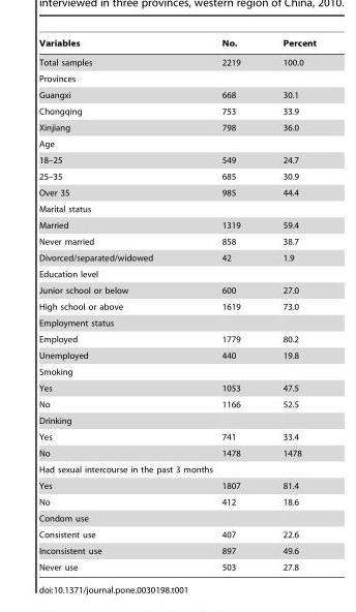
<table><thead><tr><td>Variables</td><td>No.</td><td>Percent</td></tr></thead><tbody><tr><td>Total samples</td><td>2219</td><td>100.0</td></tr><tr><td colspan="3">Provinces</td></tr><tr><td>Guangxi</td><td>668</td><td>30.1</td></tr><tr><td>Chongqing</td><td>753</td><td>33.9</td></tr><tr><td>Xinjiang</td><td>798</td><td>36.0</td></tr><tr><td colspan="3">Age</td></tr><tr><td>18–25</td><td>549</td><td>24.7</td></tr><tr><td>25–35</td><td>685</td><td>30.9</td></tr><tr><td>Over 35</td><td>985</td><td>44.4</td></tr><tr><td colspan="3">Marital status</td></tr><tr><td>Married</td><td>1319</td><td>59.4</td></tr><tr><td>Never married</td><td>858</td><td>38.7</td></tr><tr><td>Divorced/separated/widowed</td><td>42</td><td>1.9</td></tr><tr><td colspan="3">Education level</td></tr><tr><td>Junior school or below</td><td>600</td><td>27.0</td></tr><tr><td>High school or above</td><td>1619</td><td>73.0</td></tr><tr><td colspan="3">Employment status</td></tr><tr><td>Employed</td><td>1779</td><td>80.2</td></tr><tr><td>Unemployed</td><td>440</td><td>19.8</td></tr><tr><td colspan="3">Smoking</td></tr><tr><td>Yes</td><td>1053</td><td>47.5</td></tr><tr><td>No</td><td>1166</td><td>52.5</td></tr><tr><td colspan="3">Drinking</td></tr><tr><td>Yes</td><td>741</td><td>33.4</td></tr><tr><td>No</td><td>1478</td><td>1478</td></tr><tr><td colspan="3">Had sexual intercourse in the past 3 months</td></tr><tr><td>Yes</td><td>1807</td><td>81.4</td></tr><tr><td>No</td><td>412</td><td>18.6</td></tr><tr><td colspan="3">Condom use</td></tr><tr><td>Consistent use</td><td>407</td><td>22.6</td></tr><tr><td>Inconsistent use</td><td>897</td><td>49.6</td></tr><tr><td>Never use</td><td>503</td><td>27.8</td></tr></tbody></table>